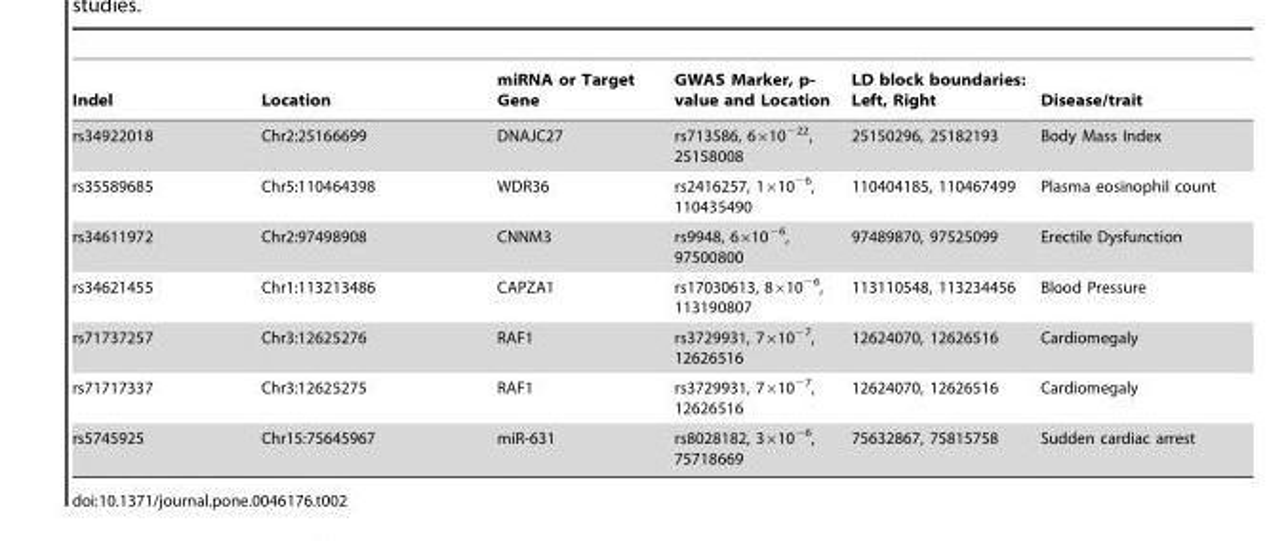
<table><thead><tr><td>Indel</td><td>Location</td><td>miRNA or Target Gene</td><td>GWAS Marker, p- value and Location</td><td>LD block boundaries: Left, Right</td><td>Disease/trait</td></tr></thead><tbody><tr><td>rs34922018</td><td>Chr2:25166699</td><td>DNAJC27</td><td>rs713586, 6×10<sup>−22</sup>, 25158008</td><td>25150296, 25182193</td><td>Body Mass Index</td></tr><tr><td>rs35589685</td><td>Chr5:110464398</td><td>WDR36</td><td>rs2416257, 1×10<sup>−6</sup>, 110435490</td><td>110404185, 110467499</td><td>Plasma eosinophil count</td></tr><tr><td>rs34611972</td><td>Chr2:97498908</td><td>CNNM3</td><td>rs9948, 6×10<sup>−6</sup>, 97500800</td><td>97489870, 97525099</td><td>Erectile Dysfunction</td></tr><tr><td>rs34621455</td><td>Chr1:113213486</td><td>CAPZA1</td><td>rs17030613, 8×10<sup>−6</sup>, 113190807</td><td>113110548, 113234456</td><td>Blood Pressure</td></tr><tr><td>rs71737257</td><td>Chr3:12625276</td><td>RAF1</td><td>rs3729931, 7×10<sup>−7</sup>, 12626516</td><td>12624070, 12626516</td><td>Cardiomegaly</td></tr><tr><td>rs71717337</td><td>Chr3:12625275</td><td>RAF1</td><td>rs3729931, 7×10<sup>−7</sup>, 12626516</td><td>12624070, 12626516</td><td>Cardiomegaly</td></tr><tr><td>rs5745925</td><td>Chr15:75645967</td><td>miR-631</td><td>rs8028182, 3×10<sup>−6</sup>, 75718669</td><td>75632867, 75815758</td><td>Sudden cardiac arrest</td></tr></tbody></table>